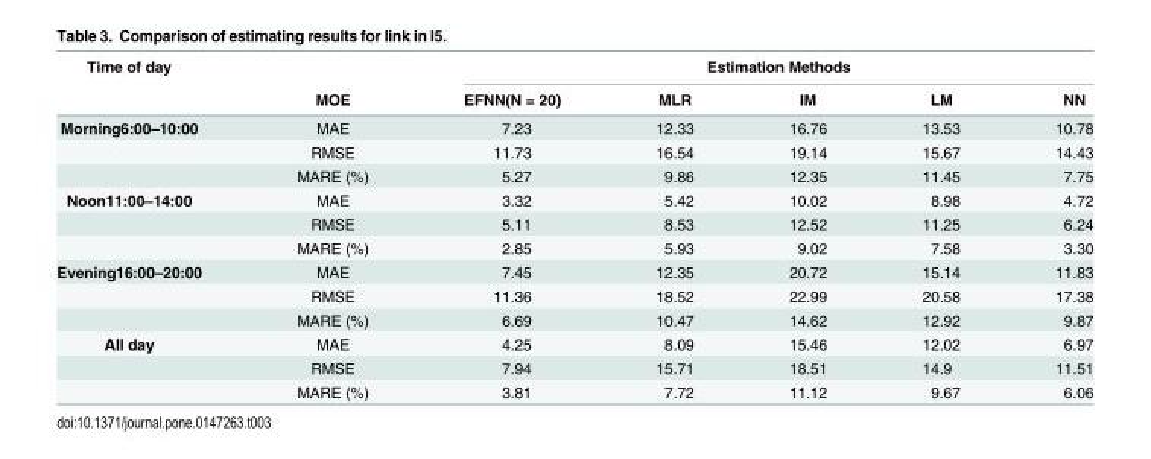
<table><thead><tr><td rowspan="2">Time of day</td><td rowspan="2">MOE</td><td colspan="5">Estimation Methods</td></tr><tr><td>EFNN(N = 20)</td><td>MLR</td><td>IM</td><td>LM</td><td>NN</td></tr></thead><tbody><tr><td rowspan="3">Morning6:00–10:00</td><td>MAE</td><td>7.23</td><td>12.33</td><td>16.76</td><td>13.53</td><td>10.78</td></tr><tr><td>RMSE</td><td>11.73</td><td>16.54</td><td>19.14</td><td>15.67</td><td>14.43</td></tr><tr><td>MARE (%)</td><td>5.27</td><td>9.86</td><td>12.35</td><td>11.45</td><td>7.75</td></tr><tr><td rowspan="3">Noon11:00–14:00</td><td>MAE</td><td>3.32</td><td>5.42</td><td>10.02</td><td>8.98</td><td>4.72</td></tr><tr><td>RMSE</td><td>5.11</td><td>8.53</td><td>12.52</td><td>11.25</td><td>6.24</td></tr><tr><td>MARE (%)</td><td>2.85</td><td>5.93</td><td>9.02</td><td>7.58</td><td>3.30</td></tr><tr><td rowspan="3">Evening16:00–20:00</td><td>MAE</td><td>7.45</td><td>12.35</td><td>20.72</td><td>15.14</td><td>11.83</td></tr><tr><td>RMSE</td><td>11.36</td><td>18.52</td><td>22.99</td><td>20.58</td><td>17.38</td></tr><tr><td>MARE (%)</td><td>6.69</td><td>10.47</td><td>14.62</td><td>12.92</td><td>9.87</td></tr><tr><td rowspan="3">All day</td><td>MAE</td><td>4.25</td><td>8.09</td><td>15.46</td><td>12.02</td><td>6.97</td></tr><tr><td>RMSE</td><td>7.94</td><td>15.71</td><td>18.51</td><td>14.9</td><td>11.51</td></tr><tr><td>MARE (%)</td><td>3.81</td><td>7.72</td><td>11.12</td><td>9.67</td><td>6.06</td></tr></tbody></table>